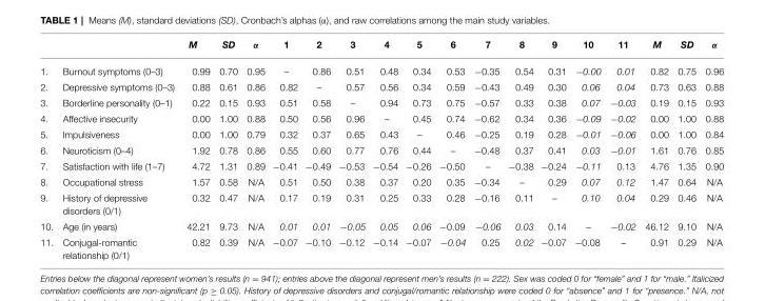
<table><thead><tr><td></td><td></td><td>M</td><td>SD</td><td>α</td><td>1</td><td>2</td><td>3</td><td>4</td><td>5</td><td>6</td><td>7</td><td>8</td><td>9</td><td>10</td><td>11</td><td>M</td><td>SD</td><td>α</td></tr></thead><tbody><tr><td>1.</td><td>Burnout symptoms (0–3)</td><td>0.99</td><td>0.70</td><td>0.95</td><td>–</td><td>0.86</td><td>0.51</td><td>0.48</td><td>0.34</td><td>0.53</td><td>−0.35</td><td>0.54</td><td>0.31</td><td>−0.00</td><td>0.01</td><td>0.82</td><td>0.75</td><td>0.96</td></tr><tr><td>2.</td><td>Depressive symptoms (0–3)</td><td>0.88</td><td>0.61</td><td>0.86</td><td>0.82</td><td>–</td><td>0.57</td><td>0.56</td><td>0.34</td><td>0.59</td><td>−0.43</td><td>0.49</td><td>0.30</td><td>0.06</td><td>0.04</td><td>0.73</td><td>0.63</td><td>0.88</td></tr><tr><td>3.</td><td>Borderline personality (0–1)</td><td>0.22</td><td>0.15</td><td>0.93</td><td>0.51</td><td>0.58</td><td>–</td><td>0.94</td><td>0.73</td><td>0.75</td><td>−0.57</td><td>0.33</td><td>0.38</td><td>0.07</td><td>−0.03</td><td>0.19</td><td>0.15</td><td>0.93</td></tr><tr><td>4.</td><td>Affective insecurity</td><td>0.00</td><td>1.00</td><td>0.88</td><td>0.50</td><td>0.56</td><td>0.96</td><td>–</td><td>0.45</td><td>0.74</td><td>−0.62</td><td>0.34</td><td>0.36</td><td>−0.09</td><td>−0.02</td><td>0.00</td><td>1.00</td><td>0.88</td></tr><tr><td>5.</td><td>Impulsiveness</td><td>0.00</td><td>1.00</td><td>0.79</td><td>0.32</td><td>0.37</td><td>0.65</td><td>0.43</td><td>–</td><td>0.46</td><td>−0.25</td><td>0.19</td><td>0.28</td><td>−0.01</td><td>−0.06</td><td>0.00</td><td>1.00</td><td>0.84</td></tr><tr><td>6.</td><td>Neuroticism (0–4)</td><td>1.92</td><td>0.78</td><td>0.86</td><td>0.55</td><td>0.60</td><td>0.77</td><td>0.76</td><td>0.44</td><td>–</td><td>−0.48</td><td>0.37</td><td>0.41</td><td>0.03</td><td>−0.01</td><td>1.61</td><td>0.76</td><td>0.85</td></tr><tr><td>7.</td><td>Satisfaction with life (1–7)</td><td>4.72</td><td>1.31</td><td>0.89</td><td>−0.41</td><td>−0.49</td><td>−0.53</td><td>−0.54</td><td>−0.26</td><td>−0.50</td><td>–</td><td>−0.38</td><td>−0.24</td><td>−0.11</td><td>0.13</td><td>4.76</td><td>1.35</td><td>0.90</td></tr><tr><td>8.</td><td>Occupational stress</td><td>1.57</td><td>0.58</td><td>N/A</td><td>0.51</td><td>0.50</td><td>0.38</td><td>0.37</td><td>0.20</td><td>0.35</td><td>−0.34</td><td>–</td><td>0.29</td><td>0.07</td><td>0.12</td><td>1.47</td><td>0.64</td><td>N/A</td></tr><tr><td>9.</td><td>History of depressive disorders (0/1)</td><td>0.32</td><td>0.47</td><td>N/A</td><td>0.17</td><td>0.19</td><td>0.31</td><td>0.25</td><td>0.33</td><td>0.28</td><td>−0.16</td><td>0.11</td><td>–</td><td>0.10</td><td>0.04</td><td>0.29</td><td>0.46</td><td>N/A</td></tr><tr><td>10.</td><td>Age (in years)</td><td>42.21</td><td>9.73</td><td>N/A</td><td>0.01</td><td>0.01</td><td>−0.05</td><td>0.05</td><td>0.06</td><td>−0.09</td><td>−0.06</td><td>0.03</td><td>0.14</td><td>–</td><td>−0.02</td><td>46.12</td><td>9.10</td><td>N/A</td></tr><tr><td>11.</td><td>Conjugal-romantic relationship (0/1)</td><td>0.82</td><td>0.39</td><td>N/A</td><td>−0.07</td><td>−0.10</td><td>−0.12</td><td>−0.14</td><td>−0.07</td><td>−0.04</td><td>0.25</td><td>0.02</td><td>−0.07</td><td>−0.08</td><td>–</td><td>0.91</td><td>0.29</td><td>N/A</td></tr></tbody></table>